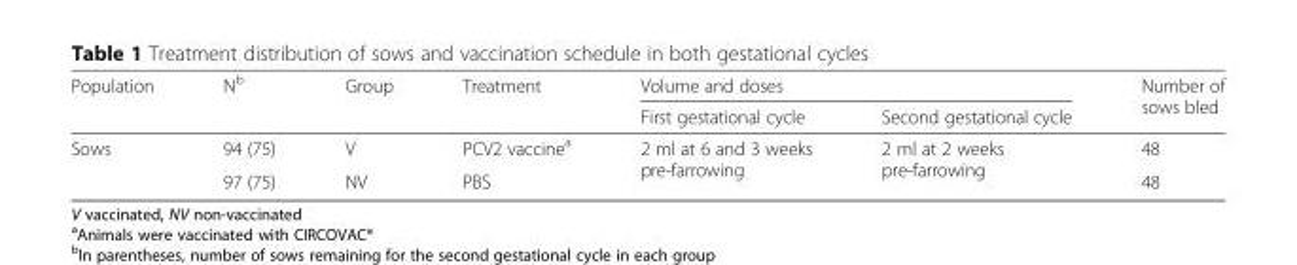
<table><thead><tr><td rowspan="2">Population</td><td rowspan="2">N<sup>b</sup></td><td rowspan="2">Group</td><td rowspan="2">Treatment</td><td colspan="2">Volume and doses</td><td rowspan="2">Number of sows bled</td></tr><tr><td>First gestational cycle</td><td>Second gestational cycle</td></tr></thead><tbody><tr><td rowspan="2">Sows</td><td>94 (75)</td><td>V</td><td>PCV2 vaccine<sup>a</sup></td><td rowspan="2">2 ml at 6 and 3 weeks pre-farrowing</td><td rowspan="2">2 ml at 2 weeks pre-farrowing</td><td>48</td></tr><tr><td>97 (75)</td><td>NV</td><td>PBS</td><td>48</td></tr></tbody></table>